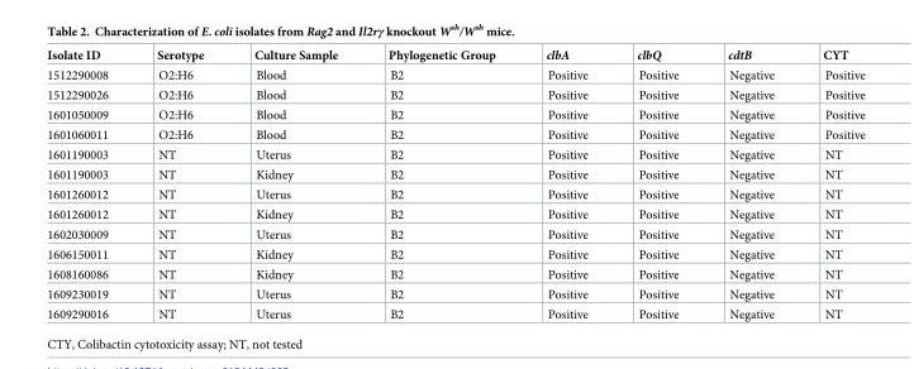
<table><thead><tr><td>Isolate ID</td><td>Serotype</td><td>Culture Sample</td><td>Phylogenetic Group</td><td>clbA</td><td>clbQ</td><td>cdtB</td><td>CYT</td></tr></thead><tbody><tr><td>1512290008</td><td>O2:H6</td><td>Blood</td><td>B2</td><td>Positive</td><td>Positive</td><td>Negative</td><td>Positive</td></tr><tr><td>1512290026</td><td>O2:H6</td><td>Blood</td><td>B2</td><td>Positive</td><td>Positive</td><td>Negative</td><td>Positive</td></tr><tr><td>1601050009</td><td>O2:H6</td><td>Blood</td><td>B2</td><td>Positive</td><td>Positive</td><td>Negative</td><td>Positive</td></tr><tr><td>1601060011</td><td>O2:H6</td><td>Blood</td><td>B2</td><td>Positive</td><td>Positive</td><td>Negative</td><td>Positive</td></tr><tr><td>1601190003</td><td>NT</td><td>Uterus</td><td>B2</td><td>Positive</td><td>Positive</td><td>Negative</td><td>NT</td></tr><tr><td>1601190003</td><td>NT</td><td>Kidney</td><td>B2</td><td>Positive</td><td>Positive</td><td>Negative</td><td>NT</td></tr><tr><td>1601260012</td><td>NT</td><td>Uterus</td><td>B2</td><td>Positive</td><td>Positive</td><td>Negative</td><td>NT</td></tr><tr><td>1601260012</td><td>NT</td><td>Kidney</td><td>B2</td><td>Positive</td><td>Positive</td><td>Negative</td><td>NT</td></tr><tr><td>1602030009</td><td>NT</td><td>Uterus</td><td>B2</td><td>Positive</td><td>Positive</td><td>Negative</td><td>NT</td></tr><tr><td>1606150011</td><td>NT</td><td>Kidney</td><td>B2</td><td>Positive</td><td>Positive</td><td>Negative</td><td>NT</td></tr><tr><td>1608160086</td><td>NT</td><td>Kidney</td><td>B2</td><td>Positive</td><td>Positive</td><td>Negative</td><td>NT</td></tr><tr><td>1609230019</td><td>NT</td><td>Uterus</td><td>B2</td><td>Positive</td><td>Positive</td><td>Negative</td><td>NT</td></tr><tr><td>1609290016</td><td>NT</td><td>Uterus</td><td>B2</td><td>Positive</td><td>Positive</td><td>Negative</td><td>NT</td></tr></tbody></table>